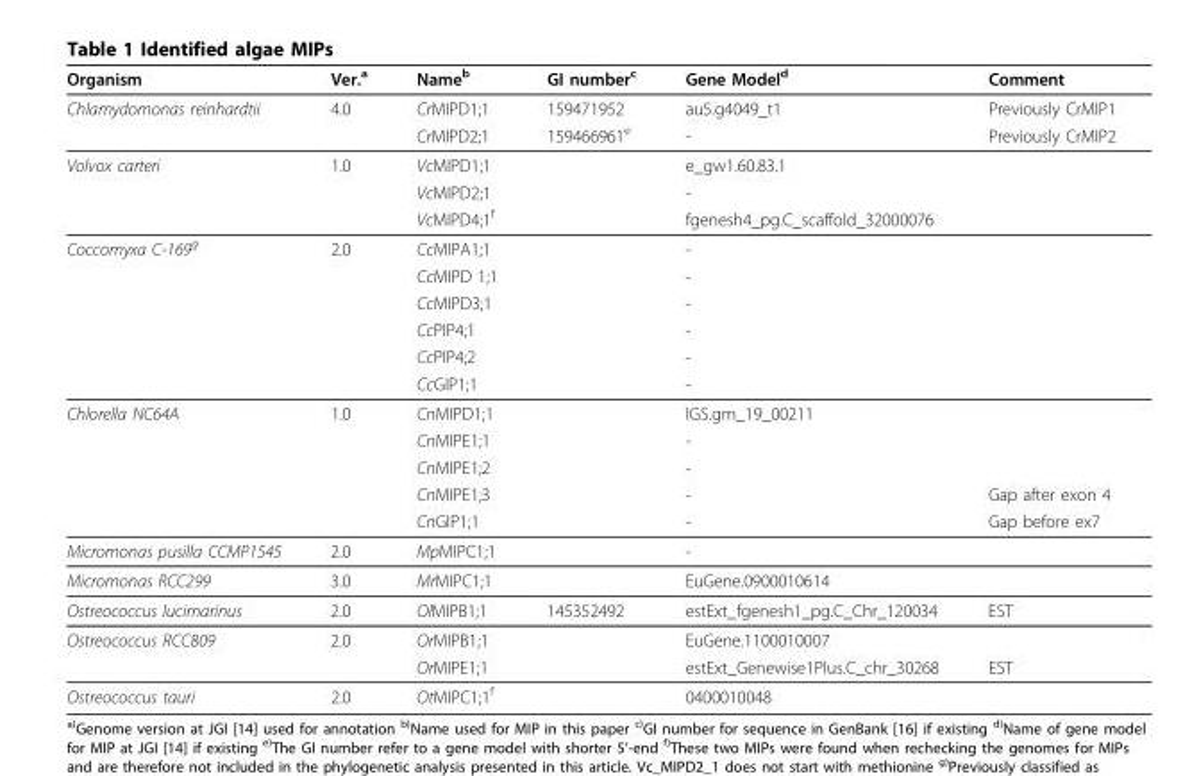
<table><thead><tr><td>Organism</td><td>Ver.<sup>a</sup></td><td>Name<sup>b</sup></td><td>GI number<sup>c</sup></td><td>Gene Model<sup>d</sup></td><td>Comment</td></tr></thead><tbody><tr><td rowspan="2">Chlamydomonas reinhardtii</td><td>4.0</td><td>CrMIPD1;1</td><td>159471952</td><td>au5.g4049_t1</td><td>Previously CrMIP1</td></tr><tr><td></td><td>CrMIPD2;1</td><td>159466961<sup>e</sup></td><td>-</td><td>Previously CrMIP2</td></tr><tr><td rowspan="3">Volvox carteri</td><td>1.0</td><td>VcMIPD1;1</td><td></td><td>e_gw1.60.83.1</td><td></td></tr><tr><td></td><td>VcMIPD2;1</td><td></td><td>-</td><td></td></tr><tr><td></td><td>VcMIPD4;1<sup>f</sup></td><td></td><td>fgenesh4_pg.C_scaffold_32000076</td><td></td></tr><tr><td rowspan="6">Coccomyxa C-169<sup>g</sup></td><td>2.0</td><td>CcMIPA1;1</td><td></td><td>-</td><td></td></tr><tr><td></td><td>CcMIPD 1;1</td><td></td><td>-</td><td></td></tr><tr><td></td><td>CcMIPD3;1</td><td></td><td>-</td><td></td></tr><tr><td></td><td>CcPIP4;1</td><td></td><td>-</td><td></td></tr><tr><td></td><td>CcPIP4;2</td><td></td><td>-</td><td></td></tr><tr><td></td><td>CcGIP1;1</td><td></td><td>-</td><td></td></tr><tr><td rowspan="5">Chlorella NC64A</td><td>1.0</td><td>CnMIPD1;1</td><td></td><td>IGS.gm_19_00211</td><td></td></tr><tr><td></td><td>CnMIPE1;1</td><td></td><td>-</td><td></td></tr><tr><td></td><td>CnMIPE1;2</td><td></td><td>-</td><td></td></tr><tr><td></td><td>CnMIPE1;3</td><td></td><td>-</td><td>Gap after exon 4</td></tr><tr><td></td><td>CnGIP1;1</td><td></td><td>-</td><td>Gap before ex7</td></tr><tr><td>Micromonas pusilla CCMP1545</td><td>2.0</td><td>MpMIPC1;1</td><td></td><td>-</td><td></td></tr><tr><td>Micromonas RCC299</td><td>3.0</td><td>MrMIPC1;1</td><td></td><td>EuGene.0900010614</td><td></td></tr><tr><td>Ostreococcus lucimarinus</td><td>2.0</td><td>OlMIPB1;1</td><td>145352492</td><td>estExt_fgenesh1_pg.C_Chr_120034</td><td>EST</td></tr><tr><td rowspan="2">Ostreococcus RCC809</td><td>2.0</td><td>OrMIPB1;1</td><td></td><td>EuGene.1100010007</td><td></td></tr><tr><td></td><td>OrMIPE1;1</td><td></td><td>estExt_Genewise1Plus.C_chr_30268</td><td>EST</td></tr><tr><td>Ostreococcus tauri</td><td>2.0</td><td>OtMIPC1;1<sup>f</sup></td><td></td><td>0400010048</td><td></td></tr></tbody></table>